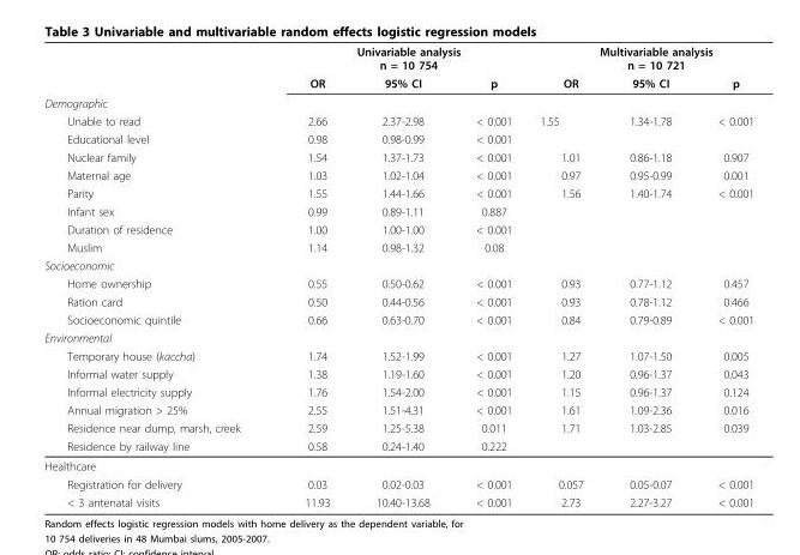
<table><thead><tr><td rowspan="22">Demographic Unable to read Educational level Nuclear family Maternal age Parity Infant sex Duration of residence Muslim Socioeconomic Home ownership Ration card Socioeconomic quintile Environmental Temporary house (kaccha) Informal water supply Informal electricity supply Annual migration &gt; 25% Residence near dump, marsh, creek Residence by railway line</td><td colspan="3">Univariable analysis n = 10 754</td><td colspan="3">Multivariable analysis n = 10 721</td></tr><tr><td rowspan="21">OR 2.66 0.98 1.54 1.03 1.55 0.99 1.00 1.14 0.55 0.50 0.66 1.74 1.38 1.76 2.55 2.59 0.58</td><td rowspan="21">95% CI 2.37-2.98 0.98-0.99 1.37-1.73 1.02-1.04 1.44-1.66 0.89-1.11 1.00-1.00 0.98-1.32 0.50-0.62 0.44-0.56 0.63-0.70 1.52-1.99 1.19-1.60 1.54-2.00 1.51-4.31 1.25-5.38 0.24-1.40</td><td rowspan="21">p &lt; 0.001 &lt; 0.001 &lt; 0.001 &lt; 0.001 &lt; 0.001 0.887 &lt; 0.001 0.08 &lt; 0.001 &lt; 0.001 &lt; 0.001 &lt; 0.001 &lt; 0.001 &lt; 0.001 &lt; 0.001 0.011 0.222</td><td rowspan="21">OR 1.55 1.01 0.97 1.56 0.93 0.93 0.84 1.27 1.20 1.15 1.61 1.71</td><td rowspan="21">95% CI 1.34-1.78 0.86-1.18 0.95-0.99 1.40-1.74 0.77-1.12 0.78-1.12 0.79-0.89 1.07-1.50 0.96-1.37 0.96-1.37 1.09-2.36 1.03-2.85</td><td rowspan="21">p &lt; 0.001 0.907 0.001 &lt; 0.001 0.457 0.466 &lt; 0.001 0.005 0.043 0.124 0.016 0.039</td></tr><tr></tr><tr></tr><tr></tr><tr></tr><tr></tr><tr></tr><tr></tr><tr></tr><tr></tr><tr></tr><tr></tr><tr></tr><tr></tr><tr></tr><tr></tr><tr></tr><tr></tr><tr></tr><tr></tr><tr></tr></thead><tbody><tr><td colspan="7">Healthcare</td></tr><tr><td>Registration for delivery</td><td>0.03</td><td>0.02-0.03</td><td>&lt; 0.001</td><td>0.057</td><td>0.05-0.07</td><td>&lt; 0.001</td></tr><tr><td>&lt; 3 antenatal visits</td><td>11.93</td><td>10.40-13.68</td><td>&lt; 0.001</td><td>2.73</td><td>2.27-3.27</td><td>&lt; 0.001</td></tr></tbody></table>